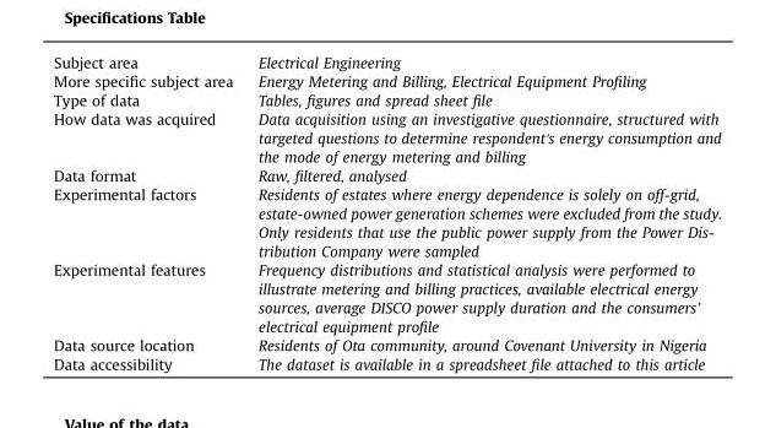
<table><tbody><tr><td>Subject area</td><td>Electrical Engineering</td></tr><tr><td>More specific subject area</td><td>Energy Metering and Billing, Electrical Equipment Profiling</td></tr><tr><td>Type of data</td><td>Tables, figures and spread sheet file</td></tr><tr><td>How data was acquired</td><td>Data acquisition using an investigative questionnaire, structured with targeted questions to determine respondent&#x27;s energy consumption and the mode of energy metering and billing</td></tr><tr><td>Data format</td><td>Raw, filtered, analysed</td></tr><tr><td>Experimental factors</td><td>Residents of estates where energy dependence is solely on off-grid, estate-owned power generation schemes were excluded from the study. Only residents that use the public power supply from the Power Dis- tribution Company were sampled</td></tr><tr><td>Experimental features</td><td>Frequency distributions and statistical analysis were performed to illustrate metering and billing practices, available electrical energy sources, average DISCO power supply duration and the consumers’ electrical equipment profile</td></tr><tr><td>Data source location</td><td>Residents of Ota community, around Covenant University in Nigeria</td></tr><tr><td>Data accessibility</td><td>The dataset is available in a spreadsheet file attached to this article</td></tr></tbody></table>